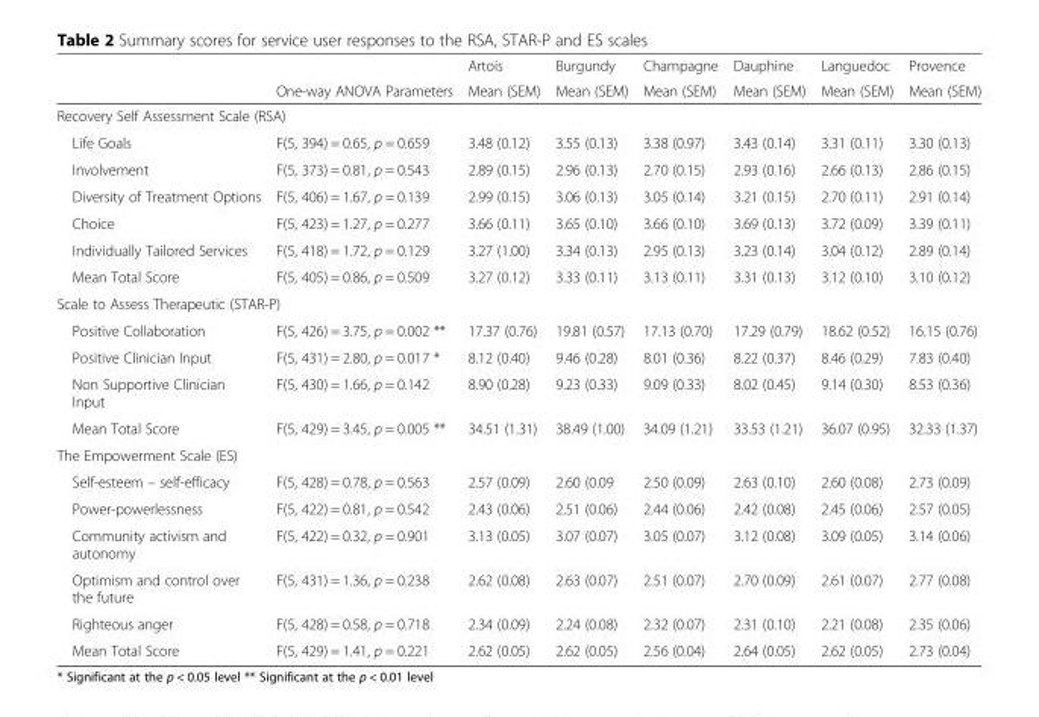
<table><thead><tr><td rowspan="2"></td><td rowspan="2">One-way ANOVA Parameters</td><td rowspan="2">Artois Mean (SEM)</td><td rowspan="2">Burgundy Mean (SEM)</td><td rowspan="2">Champagne Mean (SEM)</td><td rowspan="2">Dauphine Mean (SEM)</td><td rowspan="2">Languedoc Mean (SEM)</td><td rowspan="2">Provence Mean (SEM)</td></tr><tr></tr></thead><tbody><tr><td colspan="8">Recovery Self Assessment Scale (RSA)</td></tr><tr><td>Life Goals</td><td>F(5, 394) = 0.65, p = 0.659</td><td>3.48 (0.12)</td><td>3.55 (0.13)</td><td>3.38 (0.97)</td><td>3.43 (0.14)</td><td>3.31 (0.11)</td><td>3.30 (0.13)</td></tr><tr><td>Involvement</td><td>F(5, 373) = 0.81, p = 0.543</td><td>2.89 (0.15)</td><td>2.96 (0.13)</td><td>2.70 (0.15)</td><td>2.93 (0.16)</td><td>2.66 (0.13)</td><td>2.86 (0.15)</td></tr><tr><td>Diversity of Treatment Options</td><td>F(5, 406) = 1.67, p = 0.139</td><td>2.99 (0.15)</td><td>3.06 (0.13)</td><td>3.05 (0.14)</td><td>3.21 (0.15)</td><td>2.70 (0.11)</td><td>2.91 (0.14)</td></tr><tr><td>Choice</td><td>F(5, 423) = 1.27, p = 0.277</td><td>3.66 (0.11)</td><td>3.65 (0.10)</td><td>3.66 (0.10)</td><td>3.69 (0.13)</td><td>3.72 (0.09)</td><td>3.39 (0.11)</td></tr><tr><td>Individually Tailored Services</td><td>F(5, 418) = 1.72, p = 0.129</td><td>3.27 (1.00)</td><td>3.34 (0.13)</td><td>2.95 (0.13)</td><td>3.23 (0.14)</td><td>3.04 (0.12)</td><td>2.89 (0.14)</td></tr><tr><td>Mean Total Score</td><td>F(5, 405) = 0.86, p = 0.509</td><td>3.27 (0.12)</td><td>3.33 (0.11)</td><td>3.13 (0.11)</td><td>3.31 (0.13)</td><td>3.12 (0.10)</td><td>3.10 (0.12)</td></tr><tr><td colspan="8">Scale to Assess Therapeutic (STAR-P)</td></tr><tr><td>Positive Collaboration</td><td>F(5, 426) = 3.75, p = 0.002 **</td><td>17.37 (0.76)</td><td>19.81 (0.57)</td><td>17.13 (0.70)</td><td>17.29 (0.79)</td><td>18.62 (0.52)</td><td>16.15 (0.76)</td></tr><tr><td>Positive Clinician Input</td><td>F(5, 431) = 2.80, p = 0.017 *</td><td>8.12 (0.40)</td><td>9.46 (0.28)</td><td>8.01 (0.36)</td><td>8.22 (0.37)</td><td>8.46 (0.29)</td><td>7.83 (0.40)</td></tr><tr><td>Non Supportive Clinician Input</td><td>F(5, 430) = 1.66, p = 0.142</td><td>8.90 (0.28)</td><td>9.23 (0.33)</td><td>9.09 (0.33)</td><td>8.02 (0.45)</td><td>9.14 (0.30)</td><td>8.53 (0.36)</td></tr><tr><td>Mean Total Score</td><td>F(5, 429) = 3.45, p = 0.005 **</td><td>34.51 (1.31)</td><td>38.49 (1.00)</td><td>34.09 (1.21)</td><td>33.53 (1.21)</td><td>36.07 (0.95)</td><td>32.33 (1.37)</td></tr><tr><td colspan="8">The Empowerment Scale (ES)</td></tr><tr><td>Self-esteem – self-efficacy</td><td>F(5, 428) = 0.78, p = 0.563</td><td>2.57 (0.09)</td><td>2.60 (0.09</td><td>2.50 (0.09)</td><td>2.63 (0.10)</td><td>2.60 (0.08)</td><td>2.73 (0.09)</td></tr><tr><td>Power-powerlessness</td><td>F(5, 422) = 0.81, p = 0.542</td><td>2.43 (0.06)</td><td>2.51 (0.06)</td><td>2.44 (0.06)</td><td>2.42 (0.08)</td><td>2.45 (0.06)</td><td>2.57 (0.05)</td></tr><tr><td>Community activism and autonomy</td><td>F(5, 422) = 0.32, p = 0.901</td><td>3.13 (0.05)</td><td>3.07 (0.07)</td><td>3.05 (0.07)</td><td>3.12 (0.08)</td><td>3.09 (0.05)</td><td>3.14 (0.06)</td></tr><tr><td>Optimism and control over the future</td><td>F(5, 431) = 1.36, p = 0.238</td><td>2.62 (0.08)</td><td>2.63 (0.07)</td><td>2.51 (0.07)</td><td>2.70 (0.09)</td><td>2.61 (0.07)</td><td>2.77 (0.08)</td></tr><tr><td>Righteous anger</td><td>F(5, 428) = 0.58, p = 0.718</td><td>2.34 (0.09)</td><td>2.24 (0.08)</td><td>2.32 (0.07)</td><td>2.31 (0.10)</td><td>2.21 (0.08)</td><td>2.35 (0.06)</td></tr><tr><td>Mean Total Score</td><td>F(5, 429) = 1.41, p = 0.221</td><td>2.62 (0.05)</td><td>2.62 (0.05)</td><td>2.56 (0.04)</td><td>2.64 (0.05)</td><td>2.62 (0.05)</td><td>2.73 (0.04)</td></tr></tbody></table>